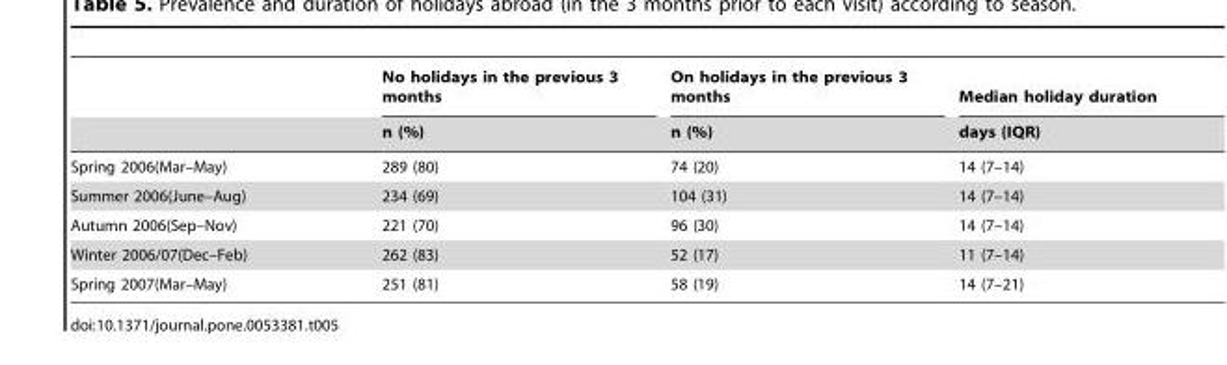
<table><thead><tr><td rowspan="2"></td><td rowspan="2">No holidays in the previous 3 months n (%)</td><td rowspan="2">On holidays in the previous 3 months n (%)</td><td rowspan="2">Median holiday duration days (IQR)</td></tr><tr></tr></thead><tbody><tr><td>Spring 2006(Mar–May)</td><td>289 (80)</td><td>74 (20)</td><td>14 (7–14)</td></tr><tr><td>Summer 2006(June–Aug)</td><td>234 (69)</td><td>104 (31)</td><td>14 (7–14)</td></tr><tr><td>Autumn 2006(Sep–Nov)</td><td>221 (70)</td><td>96 (30)</td><td>14 (7–14)</td></tr><tr><td>Winter 2006/07(Dec–Feb)</td><td>262 (83)</td><td>52 (17)</td><td>11 (7–14)</td></tr><tr><td>Spring 2007(Mar–May)</td><td>251 (81)</td><td>58 (19)</td><td>14 (7–21)</td></tr></tbody></table>